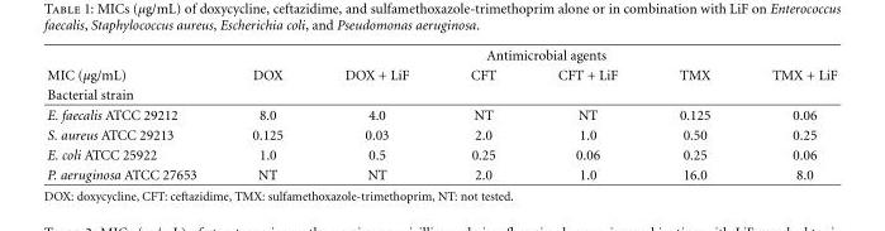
<table><thead><tr><td rowspan="3">MIC (µg/mL) Bacterial strain</td><td colspan="6">Antimicrobial agents</td></tr><tr><td rowspan="2">DOX</td><td rowspan="2">DOX + LiF</td><td rowspan="2">CFT</td><td rowspan="2">CFT + LiF</td><td rowspan="2">TMX</td><td rowspan="2">TMX + LiF</td></tr><tr></tr></thead><tbody><tr><td>E. faecalis ATCC 29212</td><td>8.0</td><td>4.0</td><td>NT</td><td>NT</td><td>0.125</td><td>0.06</td></tr><tr><td>S. aureus ATCC 29213</td><td>0.125</td><td>0.03</td><td>2.0</td><td>1.0</td><td>0.50</td><td>0.25</td></tr><tr><td>E. coli ATCC 25922</td><td>1.0</td><td>0.5</td><td>0.25</td><td>0.06</td><td>0.25</td><td>0.06</td></tr><tr><td>P. aeruginosa ATCC 27653</td><td>NT</td><td>NT</td><td>2.0</td><td>1.0</td><td>16.0</td><td>8.0</td></tr></tbody></table>